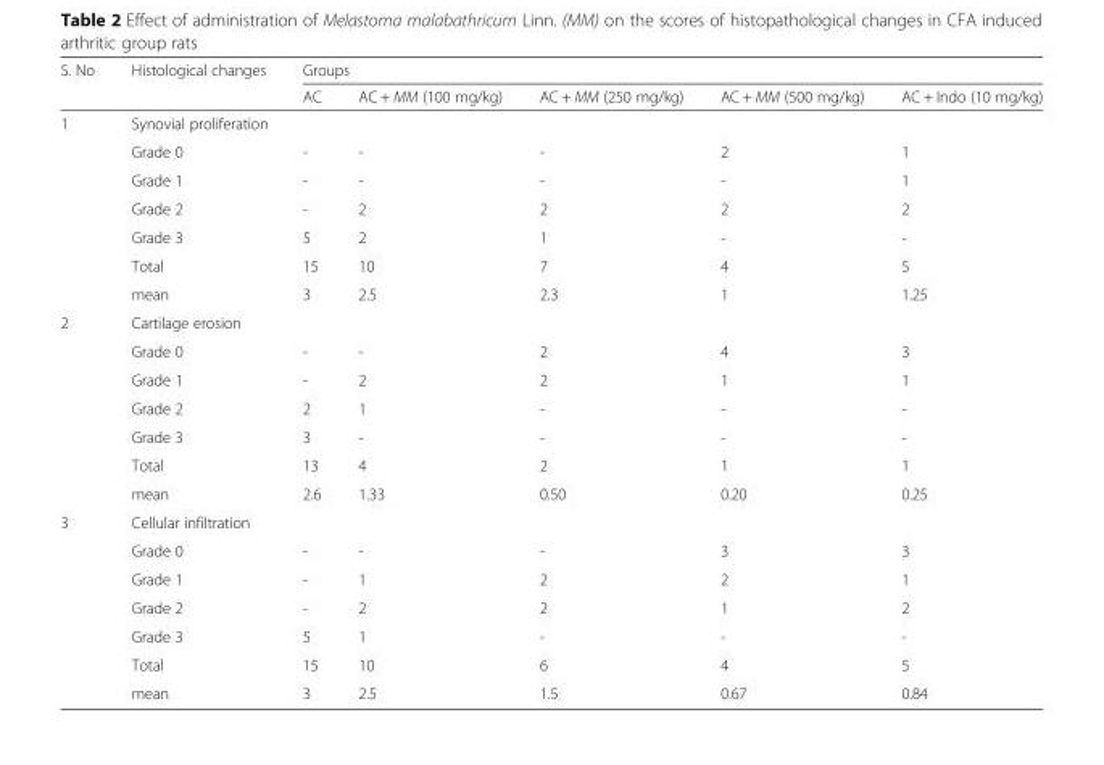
<table><thead><tr><td rowspan="2">S. No</td><td rowspan="2">Histological changes</td><td colspan="5">Groups</td></tr><tr><td>AC</td><td>AC + MM (100 mg/kg)</td><td>AC + MM (250 mg/kg)</td><td>AC + MM (500 mg/kg)</td><td>AC + Indo (10 mg/kg)</td></tr></thead><tbody><tr><td rowspan="7">1</td><td colspan="6">Synovial proliferation</td></tr><tr><td>Grade 0</td><td>-</td><td>-</td><td>-</td><td>2</td><td>1</td></tr><tr><td>Grade 1</td><td>-</td><td>-</td><td>-</td><td>-</td><td>1</td></tr><tr><td>Grade 2</td><td>-</td><td>2</td><td>2</td><td>2</td><td>2</td></tr><tr><td>Grade 3</td><td>5</td><td>2</td><td>1</td><td>-</td><td>-</td></tr><tr><td>Total</td><td>15</td><td>10</td><td>7</td><td>4</td><td>5</td></tr><tr><td>mean</td><td>3</td><td>2.5</td><td>2.3</td><td>1</td><td>1.25</td></tr><tr><td rowspan="7">2</td><td colspan="6">Cartilage erosion</td></tr><tr><td>Grade 0</td><td>-</td><td>-</td><td>2</td><td>4</td><td>3</td></tr><tr><td>Grade 1</td><td>-</td><td>2</td><td>2</td><td>1</td><td>1</td></tr><tr><td>Grade 2</td><td>2</td><td>1</td><td>-</td><td>-</td><td>-</td></tr><tr><td>Grade 3</td><td>3</td><td>-</td><td>-</td><td>-</td><td>-</td></tr><tr><td>Total</td><td>13</td><td>4</td><td>2</td><td>1</td><td>1</td></tr><tr><td>mean</td><td>2.6</td><td>1.33</td><td>0.50</td><td>0.20</td><td>0.25</td></tr><tr><td rowspan="7">3</td><td colspan="6">Cellular infiltration</td></tr><tr><td>Grade 0</td><td>-</td><td>-</td><td>-</td><td>3</td><td>3</td></tr><tr><td>Grade 1</td><td>-</td><td>1</td><td>2</td><td>2</td><td>1</td></tr><tr><td>Grade 2</td><td>-</td><td>2</td><td>2</td><td>1</td><td>2</td></tr><tr><td>Grade 3</td><td>5</td><td>1</td><td>-</td><td>-</td><td>-</td></tr><tr><td>Total</td><td>15</td><td>10</td><td>6</td><td>4</td><td>5</td></tr><tr><td>mean</td><td>3</td><td>2.5</td><td>1.5</td><td>0.67</td><td>0.84</td></tr></tbody></table>